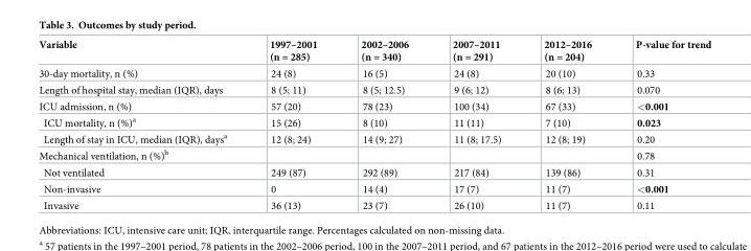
<table><thead><tr><td>Variable</td><td>1997–2001 (n = 285)</td><td>2002–2006 (n = 340)</td><td>2007–2011 (n = 291)</td><td>2012–2016 (n = 204)</td><td>P-value for trend</td></tr></thead><tbody><tr><td>30-day mortality, n (%)</td><td>24 (8)</td><td>16 (5)</td><td>24 (8)</td><td>20 (10)</td><td>0.33</td></tr><tr><td>Length of hospital stay, median (IQR), days</td><td>8 (5; 11)</td><td>8 (5; 12.5)</td><td>9 (6; 12)</td><td>8 (6; 13)</td><td>0.070</td></tr><tr><td>ICU admission, n (%)</td><td>57 (20)</td><td>78 (23)</td><td>100 (34)</td><td>67 (33)</td><td>&lt;0.001</td></tr><tr><td>ICU mortality, n (%)<sup>a</sup></td><td>15 (26)</td><td>8 (10)</td><td>11 (11)</td><td>7 (10)</td><td>0.023</td></tr><tr><td>Length of stay in ICU, median (IQR), days<sup>a</sup></td><td>12 (8; 24)</td><td>14 (9; 27)</td><td>11 (8; 17.5)</td><td>12 (8; 19)</td><td>0.20</td></tr><tr><td>Mechanical ventilation, n (%)<sup>b</sup></td><td></td><td></td><td></td><td></td><td>0.78</td></tr><tr><td>Not ventilated</td><td>249 (87)</td><td>292 (89)</td><td>217 (84)</td><td>139 (86)</td><td>0.31</td></tr><tr><td>Non-invasive</td><td>0</td><td>14 (4)</td><td>17 (7)</td><td>11 (7)</td><td>&lt;0.001</td></tr><tr><td>Invasive</td><td>36 (13)</td><td>23 (7)</td><td>26 (10)</td><td>11 (7)</td><td>0.11</td></tr></tbody></table>